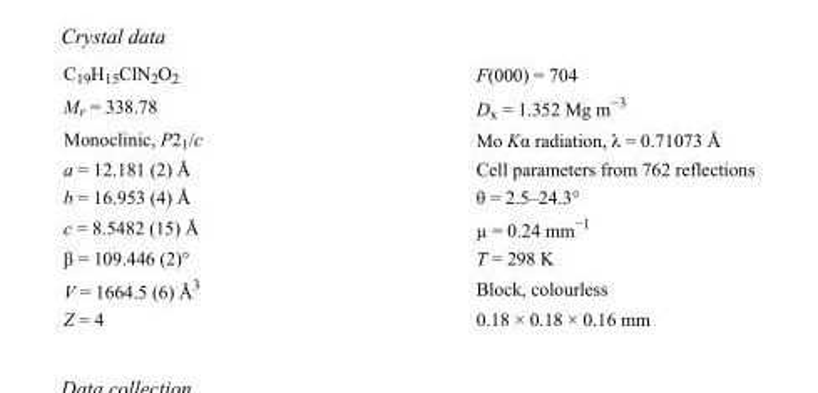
<table><tbody><tr><td>C<sub>19</sub>H<sub>15</sub>ClN<sub>2</sub>O<sub>2</sub></td><td>F(000) = 704</td></tr><tr><td>M<sub>r</sub> = 338.78</td><td>D<sub>x</sub> = 1.352 Mg m<sup>−3</sup></td></tr><tr><td>Monoclinic, P2<sub>1</sub>/c</td><td>Mo Kα radiation, λ = 0.71073 Å</td></tr><tr><td>a = 12.181 (2) Å</td><td>Cell parameters from 762 reflections</td></tr><tr><td>b = 16.953 (4) Å</td><td>θ = 2.5–24.3°</td></tr><tr><td>c = 8.5482 (15) Å</td><td>µ = 0.24 mm<sup>−1</sup></td></tr><tr><td>β = 109.446 (2)°</td><td>T = 298 K</td></tr><tr><td>V = 1664.5 (6) Å<sup>3</sup></td><td>Block, colourless</td></tr><tr><td>Z = 4</td><td>0.18 × 0.18 × 0.16 mm</td></tr></tbody></table>